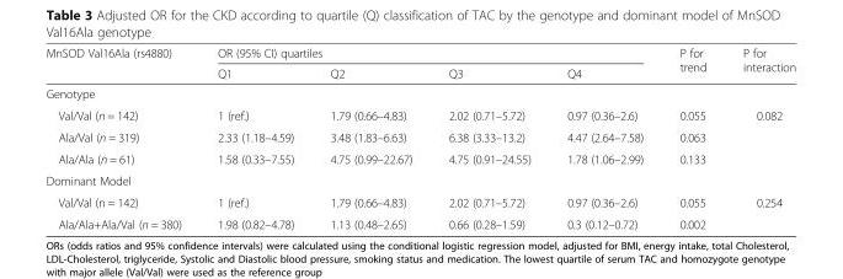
<table><thead><tr><td rowspan="2">MnSOD Val16Ala (rs4880)</td><td colspan="4">OR (95% CI) quartiles</td><td rowspan="2">P for trend</td><td rowspan="2">P for interaction</td></tr><tr><td>Q1</td><td>Q2</td><td>Q3</td><td>Q4</td></tr></thead><tbody><tr><td colspan="7">Genotype</td></tr><tr><td>Val/Val (n = 142)</td><td>1 (ref.)</td><td>1.79 (0.66–4.83)</td><td>2.02 (0.71–5.72)</td><td>0.97 (0.36–2.6)</td><td>0.055</td><td rowspan="3">0.082</td></tr><tr><td>Ala/Val (n = 319)</td><td>2.33 (1.18–4.59)</td><td>3.48 (1.83–6.63)</td><td>6.38 (3.33–13.2)</td><td>4.47 (2.64–7.58)</td><td>0.063</td></tr><tr><td>Ala/Ala (n = 61)</td><td>1.58 (0.33–7.55)</td><td>4.75 (0.99–22.67)</td><td>4.75 (0.91–24.55)</td><td>1.78 (1.06–2.99)</td><td>0.133</td></tr><tr><td colspan="7">Dominant Model</td></tr><tr><td>Val/Val (n = 142)</td><td>1 (ref.)</td><td>1.79 (0.66–4.83)</td><td>2.02 (0.71–5.72)</td><td>0.97 (0.36–2.6)</td><td>0.055</td><td rowspan="2">0.254</td></tr><tr><td>Ala/Ala+Ala/Val (n = 380)</td><td>1.98 (0.82–4.78)</td><td>1.13 (0.48–2.65)</td><td>0.66 (0.28–1.59)</td><td>0.3 (0.12–0.72)</td><td>0.002</td></tr></tbody></table>